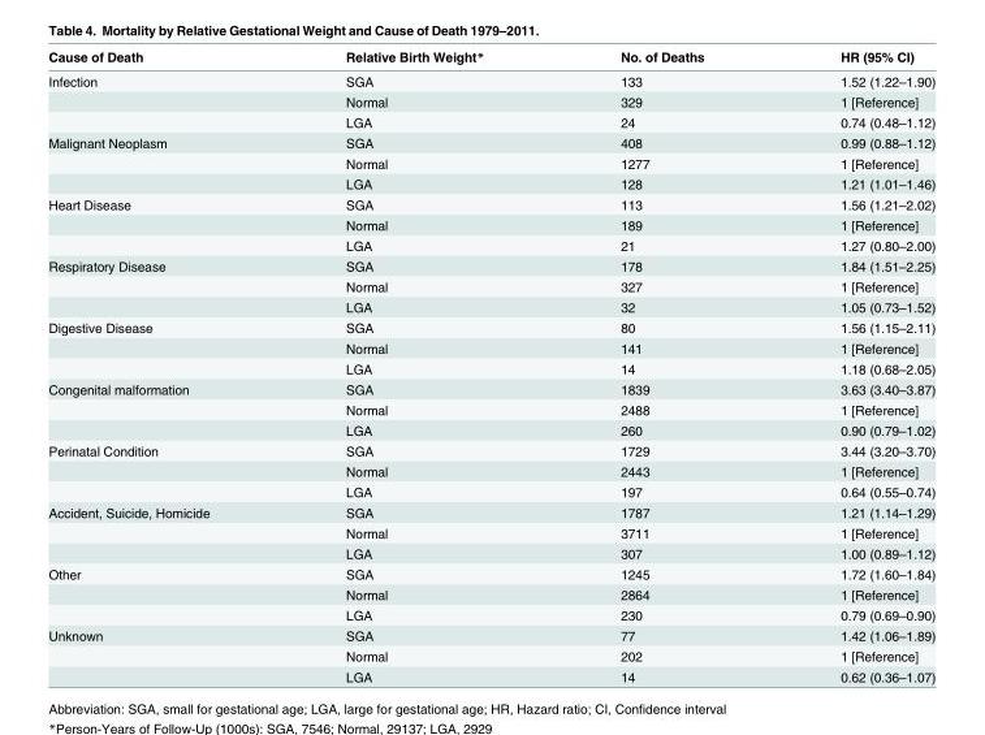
<table><thead><tr><td>Cause of Death</td><td>Relative Birth Weight*</td><td>No. of Deaths</td><td>HR (95% CI)</td></tr></thead><tbody><tr><td rowspan="3">Infection</td><td>SGA</td><td>133</td><td>1.52 (1.22–1.90)</td></tr><tr><td>Normal</td><td>329</td><td>1 [Reference]</td></tr><tr><td>LGA</td><td>24</td><td>0.74 (0.48–1.12)</td></tr><tr><td rowspan="3">Malignant Neoplasm</td><td>SGA</td><td>408</td><td>0.99 (0.88–1.12)</td></tr><tr><td>Normal</td><td>1277</td><td>1 [Reference]</td></tr><tr><td>LGA</td><td>128</td><td>1.21 (1.01–1.46)</td></tr><tr><td rowspan="3">Heart Disease</td><td>SGA</td><td>113</td><td>1.56 (1.21–2.02)</td></tr><tr><td>Normal</td><td>189</td><td>1 [Reference]</td></tr><tr><td>LGA</td><td>21</td><td>1.27 (0.80–2.00)</td></tr><tr><td rowspan="3">Respiratory Disease</td><td>SGA</td><td>178</td><td>1.84 (1.51–2.25)</td></tr><tr><td>Normal</td><td>327</td><td>1 [Reference]</td></tr><tr><td>LGA</td><td>32</td><td>1.05 (0.73–1.52)</td></tr><tr><td rowspan="3">Digestive Disease</td><td>SGA</td><td>80</td><td>1.56 (1.15–2.11)</td></tr><tr><td>Normal</td><td>141</td><td>1 [Reference]</td></tr><tr><td>LGA</td><td>14</td><td>1.18 (0.68–2.05)</td></tr><tr><td rowspan="3">Congenital malformation</td><td>SGA</td><td>1839</td><td>3.63 (3.40–3.87)</td></tr><tr><td>Normal</td><td>2488</td><td>1 [Reference]</td></tr><tr><td>LGA</td><td>260</td><td>0.90 (0.79–1.02)</td></tr><tr><td rowspan="3">Perinatal Condition</td><td>SGA</td><td>1729</td><td>3.44 (3.20–3.70)</td></tr><tr><td>Normal</td><td>2443</td><td>1 [Reference]</td></tr><tr><td>LGA</td><td>197</td><td>0.64 (0.55–0.74)</td></tr><tr><td rowspan="3">Accident, Suicide, Homicide</td><td>SGA</td><td>1787</td><td>1.21 (1.14–1.29)</td></tr><tr><td>Normal</td><td>3711</td><td>1 [Reference]</td></tr><tr><td>LGA</td><td>307</td><td>1.00 (0.89–1.12)</td></tr><tr><td rowspan="3">Other</td><td>SGA</td><td>1245</td><td>1.72 (1.60–1.84)</td></tr><tr><td>Normal</td><td>2864</td><td>1 [Reference]</td></tr><tr><td>LGA</td><td>230</td><td>0.79 (0.69–0.90)</td></tr><tr><td rowspan="3">Unknown</td><td>SGA</td><td>77</td><td>1.42 (1.06–1.89)</td></tr><tr><td>Normal</td><td>202</td><td>1 [Reference]</td></tr><tr><td>LGA</td><td>14</td><td>0.62 (0.36–1.07)</td></tr></tbody></table>